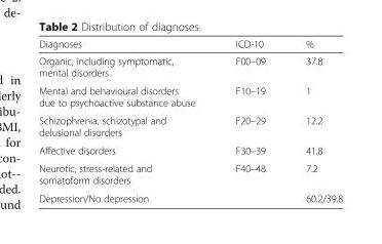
<table><thead><tr><td>Diagnoses</td><td>ICD-10</td><td>%</td></tr></thead><tbody><tr><td>Organic, including symptomatic, mental disorders</td><td>F00–09</td><td>37.8</td></tr><tr><td>Mental and behavioural disorders due to psychoactive substance abuse</td><td>F10–19</td><td>1</td></tr><tr><td>Schizophrenia, schizotypal and delusional disorders</td><td>F20–29</td><td>12.2</td></tr><tr><td>Affective disorders</td><td>F30–39</td><td>41.8</td></tr><tr><td>Neurotic, stress-related and somatoform disorders</td><td>F40–48</td><td>7.2</td></tr><tr><td>Depression/No depression</td><td></td><td>60.2/39.8</td></tr></tbody></table>